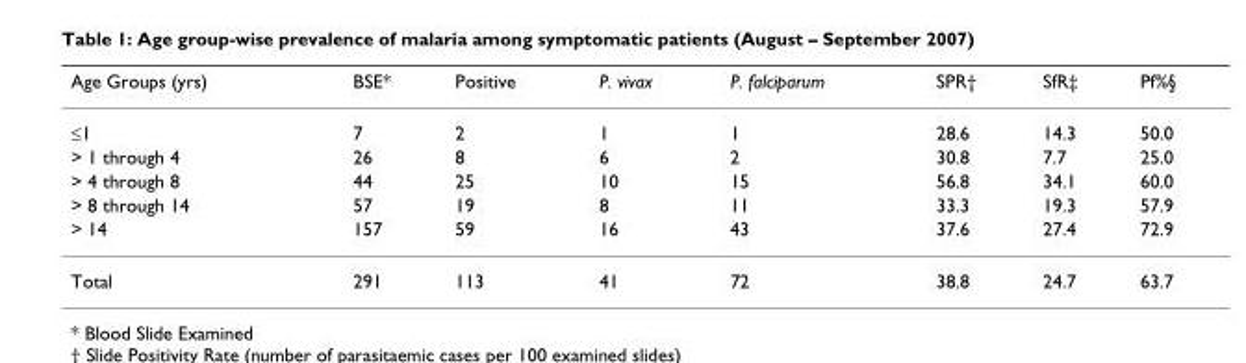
<table><thead><tr><td>Age Groups (yrs)</td><td>BSE*</td><td>Positive</td><td>P. vivax</td><td>P. falciparum</td><td>SPR†</td><td>SfR‡</td><td>Pf%§</td></tr></thead><tbody><tr><td>≤1</td><td>7</td><td>2</td><td>1</td><td>1</td><td>28.6</td><td>14.3</td><td>50.0</td></tr><tr><td>&gt; 1 through 4</td><td>26</td><td>8</td><td>6</td><td>2</td><td>30.8</td><td>7.7</td><td>25.0</td></tr><tr><td>&gt; 4 through 8</td><td>44</td><td>25</td><td>10</td><td>15</td><td>56.8</td><td>34.1</td><td>60.0</td></tr><tr><td>&gt; 8 through 14</td><td>57</td><td>19</td><td>8</td><td>11</td><td>33.3</td><td>19.3</td><td>57.9</td></tr><tr><td>&gt; 14</td><td>157</td><td>59</td><td>16</td><td>43</td><td>37.6</td><td>27.4</td><td>72.9</td></tr><tr><td>Total</td><td>291</td><td>113</td><td>41</td><td>72</td><td>38.8</td><td>24.7</td><td>63.7</td></tr></tbody></table>